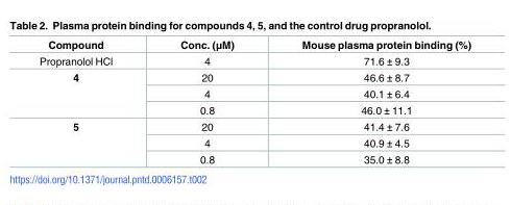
<table><thead><tr><td>Compound</td><td>Conc. (μM)</td><td>Mouse plasma protein binding (%)</td></tr></thead><tbody><tr><td>Propranolol HCl</td><td>4</td><td>71.6 ± 9.3</td></tr><tr><td rowspan="3">4</td><td>20</td><td>46.6 ± 8.7</td></tr><tr><td>4</td><td>40.1 ± 6.4</td></tr><tr><td>0.8</td><td>46.0 ± 11.1</td></tr><tr><td rowspan="3">5</td><td>20</td><td>41.4 ± 7.6</td></tr><tr><td>4</td><td>40.9 ± 4.5</td></tr><tr><td>0.8</td><td>35.0 ± 8.8</td></tr></tbody></table>